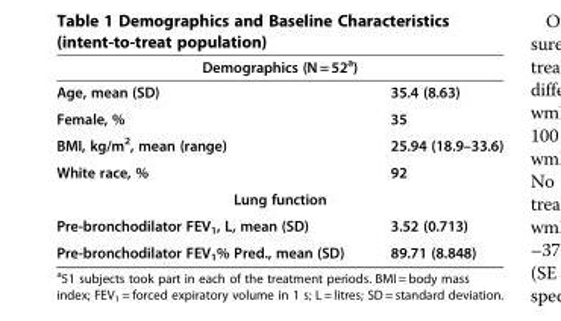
<table><thead><tr><td colspan="2">Demographics (N = 52<sup>a</sup>)</td></tr><tr><td>Age, mean (SD)</td><td>35.4 (8.63)</td></tr></thead><tbody><tr><td>Female, %</td><td>35</td></tr><tr><td>BMI, kg/m<sup>2</sup>, mean (range)</td><td>25.94 (18.9–33.6)</td></tr><tr><td>White race, %</td><td>92</td></tr><tr><td colspan="2">Lung function</td></tr><tr><td>Pre-bronchodilator FEV<sub>1</sub>, L, mean (SD)</td><td>3.52 (0.713)</td></tr><tr><td>Pre-bronchodilator FEV<sub>1</sub>% Pred., mean (SD)</td><td>89.71 (8.848)</td></tr></tbody></table>